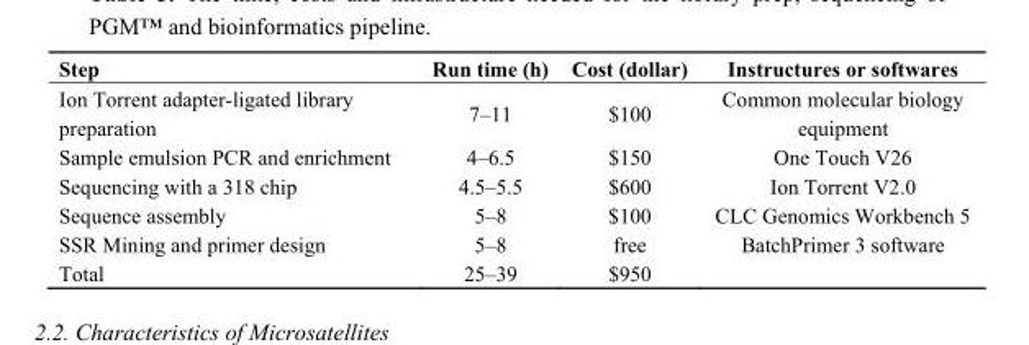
<table><thead><tr><td>Step</td><td>Run time (h)</td><td>Cost (dollar)</td><td>Instructures or softwares</td></tr></thead><tbody><tr><td>Ion Torrent adapter-ligated library preparation</td><td>7–11</td><td>$100</td><td>Common molecular biology equipment</td></tr><tr><td>Sample emulsion PCR and enrichment</td><td>4–6.5</td><td>$150</td><td>One Touch V26</td></tr><tr><td>Sequencing with a 318 chip</td><td>4.5–5.5</td><td>$600</td><td>Ion Torrent V2.0</td></tr><tr><td>Sequence assembly</td><td>5–8</td><td>$100</td><td>CLC Genomics Workbench 5</td></tr><tr><td>SSR Mining and primer design</td><td>5–8</td><td>free</td><td>BatchPrimer 3 software</td></tr><tr><td>Total</td><td>25–39</td><td>$950</td><td></td></tr></tbody></table>